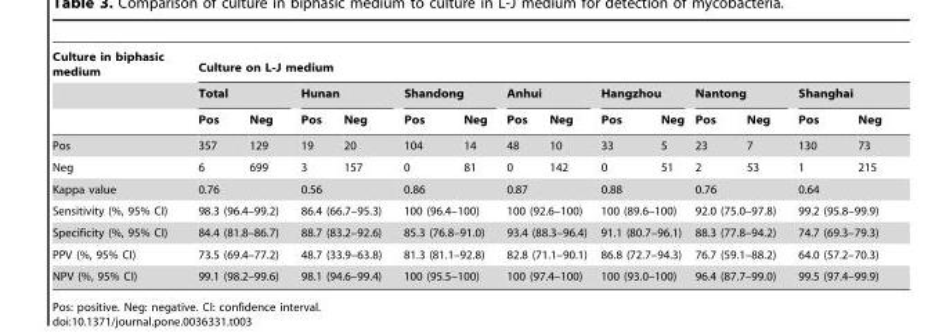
<table><thead><tr><td rowspan="3">Culture in biphasic medium</td><td colspan="14">Culture on L-J medium</td></tr><tr><td colspan="2">Total</td><td colspan="2">Hunan</td><td colspan="2">Shandong</td><td colspan="2">Anhui</td><td colspan="2">Hangzhou</td><td colspan="2">Nantong</td><td colspan="2">Shanghai</td></tr><tr><td>Pos</td><td>Neg</td><td>Pos</td><td>Neg</td><td>Pos</td><td>Neg</td><td>Pos</td><td>Neg</td><td>Pos</td><td>Neg</td><td>Pos</td><td>Neg</td><td>Pos</td><td>Neg</td></tr></thead><tbody><tr><td>Pos</td><td>357</td><td>129</td><td>19</td><td>20</td><td>104</td><td>14</td><td>48</td><td>10</td><td>33</td><td>5</td><td>23</td><td>7</td><td>130</td><td>73</td></tr><tr><td>Neg</td><td>6</td><td>699</td><td>3</td><td>157</td><td>0</td><td>81</td><td>0</td><td>142</td><td>0</td><td>51</td><td>2</td><td>53</td><td>1</td><td>215</td></tr><tr><td>Kappa value</td><td colspan="2">0.76</td><td colspan="2">0.56</td><td colspan="2">0.86</td><td colspan="2">0.87</td><td colspan="2">0.88</td><td colspan="2">0.76</td><td colspan="2">0.64</td></tr><tr><td>Sensitivity (%, 95% CI)</td><td colspan="2">98.3 (96.4–99.2)</td><td colspan="2">86.4 (66.7–95.3)</td><td colspan="2">100 (96.4–100)</td><td colspan="2">100 (92.6–100)</td><td colspan="2">100 (89.6–100)</td><td colspan="2">92.0 (75.0–97.8)</td><td colspan="2">99.2 (95.8–99.9)</td></tr><tr><td>Specificity (%, 95% CI)</td><td colspan="2">84.4 (81.8–86.7)</td><td colspan="2">88.7 (83.2–92.6)</td><td colspan="2">85.3 (76.8–91.0)</td><td colspan="2">93.4 (88.3–96.4)</td><td colspan="2">91.1 (80.7–96.1)</td><td colspan="2">88.3 (77.8–94.2)</td><td colspan="2">74.7 (69.3–79.3)</td></tr><tr><td>PPV (%, 95% CI)</td><td colspan="2">73.5 (69.4–77.2)</td><td colspan="2">48.7 (33.9–63.8)</td><td colspan="2">81.3 (81.1–92.8)</td><td colspan="2">82.8 (71.1–90.1)</td><td colspan="2">86.8 (72.7–94.3)</td><td colspan="2">76.7 (59.1–88.2)</td><td colspan="2">64.0 (57.2–70.3)</td></tr><tr><td>NPV (%, 95% CI)</td><td colspan="2">99.1 (98.2–99.6)</td><td colspan="2">98.1 (94.6–99.4)</td><td colspan="2">100 (95.5–100)</td><td colspan="2">100 (97.4–100)</td><td colspan="2">100 (93.0–100)</td><td colspan="2">96.4 (87.7–99.0)</td><td colspan="2">99.5 (97.4–99.9)</td></tr></tbody></table>